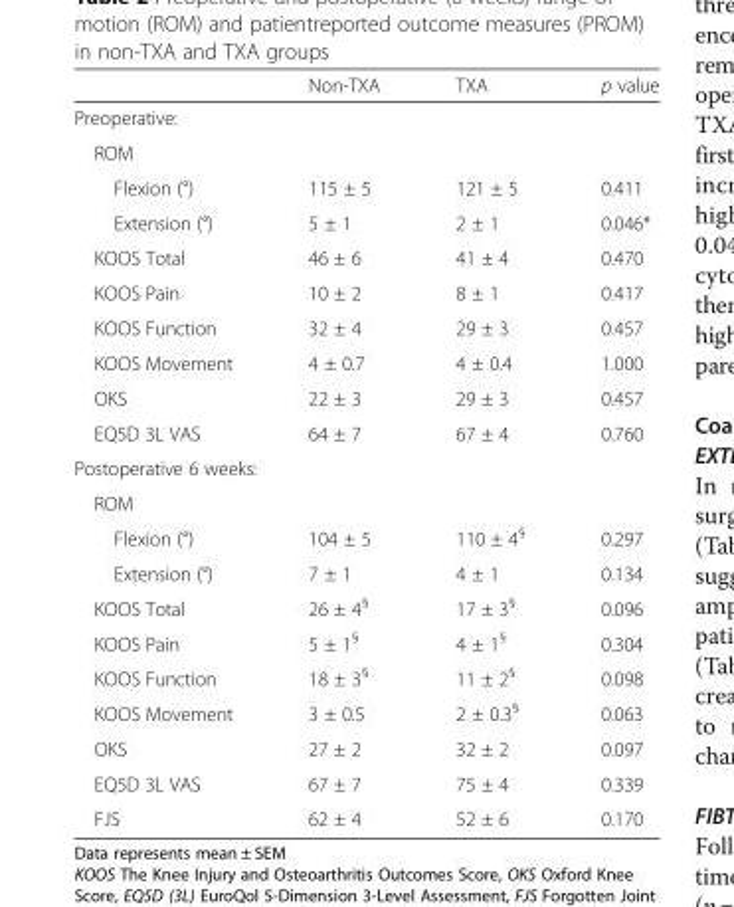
<table><thead><tr><td></td><td>Non-TXA</td><td>TXA</td><td>p value</td></tr></thead><tbody><tr><td colspan="4">Preoperative:</td></tr><tr><td colspan="4">ROM</td></tr><tr><td>Flexion (°)</td><td>115 ± 5</td><td>121 ± 5</td><td>0.411</td></tr><tr><td>Extension (°)</td><td>5 ± 1</td><td>2 ± 1</td><td>0.046*</td></tr><tr><td>KOOS Total</td><td>46 ± 6</td><td>41 ± 4</td><td>0.470</td></tr><tr><td>KOOS Pain</td><td>10 ± 2</td><td>8 ± 1</td><td>0.417</td></tr><tr><td>KOOS Function</td><td>32 ± 4</td><td>29 ± 3</td><td>0.457</td></tr><tr><td>KOOS Movement</td><td>4 ± 0.7</td><td>4 ± 0.4</td><td>1.000</td></tr><tr><td>OKS</td><td>22 ± 3</td><td>29 ± 3</td><td>0.457</td></tr><tr><td>EQ5D 3L VAS</td><td>64 ± 7</td><td>67 ± 4</td><td>0.760</td></tr><tr><td colspan="4">Postoperative 6 weeks:</td></tr><tr><td colspan="4">ROM</td></tr><tr><td>Flexion (°)</td><td>104 ± 5</td><td>110 ± 4<sup>§</sup></td><td>0.297</td></tr><tr><td>Extension (°)</td><td>7 ± 1</td><td>4 ± 1</td><td>0.134</td></tr><tr><td>KOOS Total</td><td>26 ± 4<sup>§</sup></td><td>17 ± 3<sup>§</sup></td><td>0.096</td></tr><tr><td>KOOS Pain</td><td>5 ± 1<sup>§</sup></td><td>4 ± 1<sup>§</sup></td><td>0.304</td></tr><tr><td>KOOS Function</td><td>18 ± 3<sup>§</sup></td><td>11 ± 2<sup>§</sup></td><td>0.098</td></tr><tr><td>KOOS Movement</td><td>3 ± 0.5</td><td>2 ± 0.3<sup>§</sup></td><td>0.063</td></tr><tr><td>OKS</td><td>27 ± 2</td><td>32 ± 2</td><td>0.097</td></tr><tr><td>EQ5D 3L VAS</td><td>67 ± 7</td><td>75 ± 4</td><td>0.339</td></tr><tr><td>FJS</td><td>62 ± 4</td><td>52 ± 6</td><td>0.170</td></tr></tbody></table>